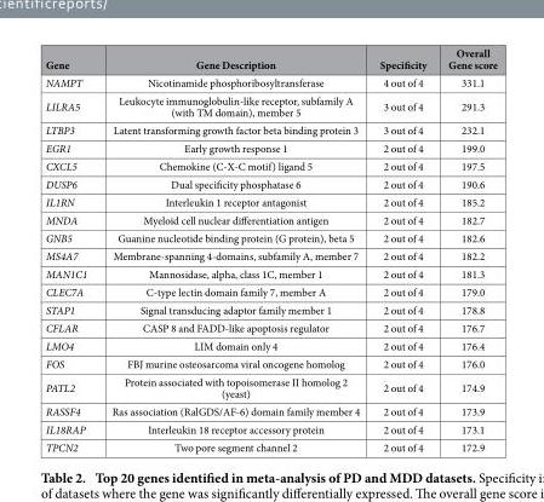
<table><thead><tr><td>Gene</td><td>Gene Description</td><td>Specificity</td><td>Overall Gene score</td></tr></thead><tbody><tr><td>NAMPT</td><td>Nicotinamide phosphoribosyltransferase</td><td>4 out of 4</td><td>331.1</td></tr><tr><td>LILRA5</td><td>Leukocyte immunoglobulin-like receptor, subfamily A (with TM domain), member 5</td><td>3 out of 4</td><td>291.3</td></tr><tr><td>LTBP3</td><td>Latent transforming growth factor beta binding protein 3</td><td>3 out of 4</td><td>232.1</td></tr><tr><td>EGR1</td><td>Early growth response 1</td><td>2 out of 4</td><td>199.0</td></tr><tr><td>CXCL5</td><td>Chemokine (C-X-C motif) ligand 5</td><td>2 out of 4</td><td>197.5</td></tr><tr><td>DUSP6</td><td>Dual specificity phosphatase 6</td><td>2 out of 4</td><td>190.6</td></tr><tr><td>IL1RN</td><td>Interleukin 1 receptor antagonist</td><td>2 out of 4</td><td>185.2</td></tr><tr><td>MNDA</td><td>Myeloid cell nuclear differentiation antigen</td><td>2 out of 4</td><td>182.7</td></tr><tr><td>GNB5</td><td>Guanine nucleotide binding protein (G protein), beta 5</td><td>2 out of 4</td><td>182.6</td></tr><tr><td>MS4A7</td><td>Membrane-spanning 4-domains, subfamily A, member 7</td><td>2 out of 4</td><td>182.2</td></tr><tr><td>MAN1C1</td><td>Mannosidase, alpha, class 1C, member 1</td><td>2 out of 4</td><td>181.3</td></tr><tr><td>CLEC7A</td><td>C-type lectin domain family 7, member A</td><td>2 out of 4</td><td>179.0</td></tr><tr><td>STAP1</td><td>Signal transducing adaptor family member 1</td><td>2 out of 4</td><td>178.8</td></tr><tr><td>CFLAR</td><td>CASP 8 and FADD-like apoptosis regulator</td><td>2 out of 4</td><td>176.7</td></tr><tr><td>LMO4</td><td>LIM domain only 4</td><td>2 out of 4</td><td>176.4</td></tr><tr><td>FOS</td><td>FBJ murine osteosarcoma viral oncogene homolog</td><td>2 out of 4</td><td>176.0</td></tr><tr><td>PATL2</td><td>Protein associated with topoisomerase II homolog 2 (yeast)</td><td>2 out of 4</td><td>174.9</td></tr><tr><td>RASSF4</td><td>Ras association (RalGDS/AF-6) domain family member 4</td><td>2 out of 4</td><td>173.9</td></tr><tr><td>IL18RAP</td><td>Interleukin 18 receptor accessory protein</td><td>2 out of 4</td><td>173.1</td></tr><tr><td>TPCN2</td><td>Two pore segment channel 2</td><td>2 out of 4</td><td>172.9</td></tr></tbody></table>